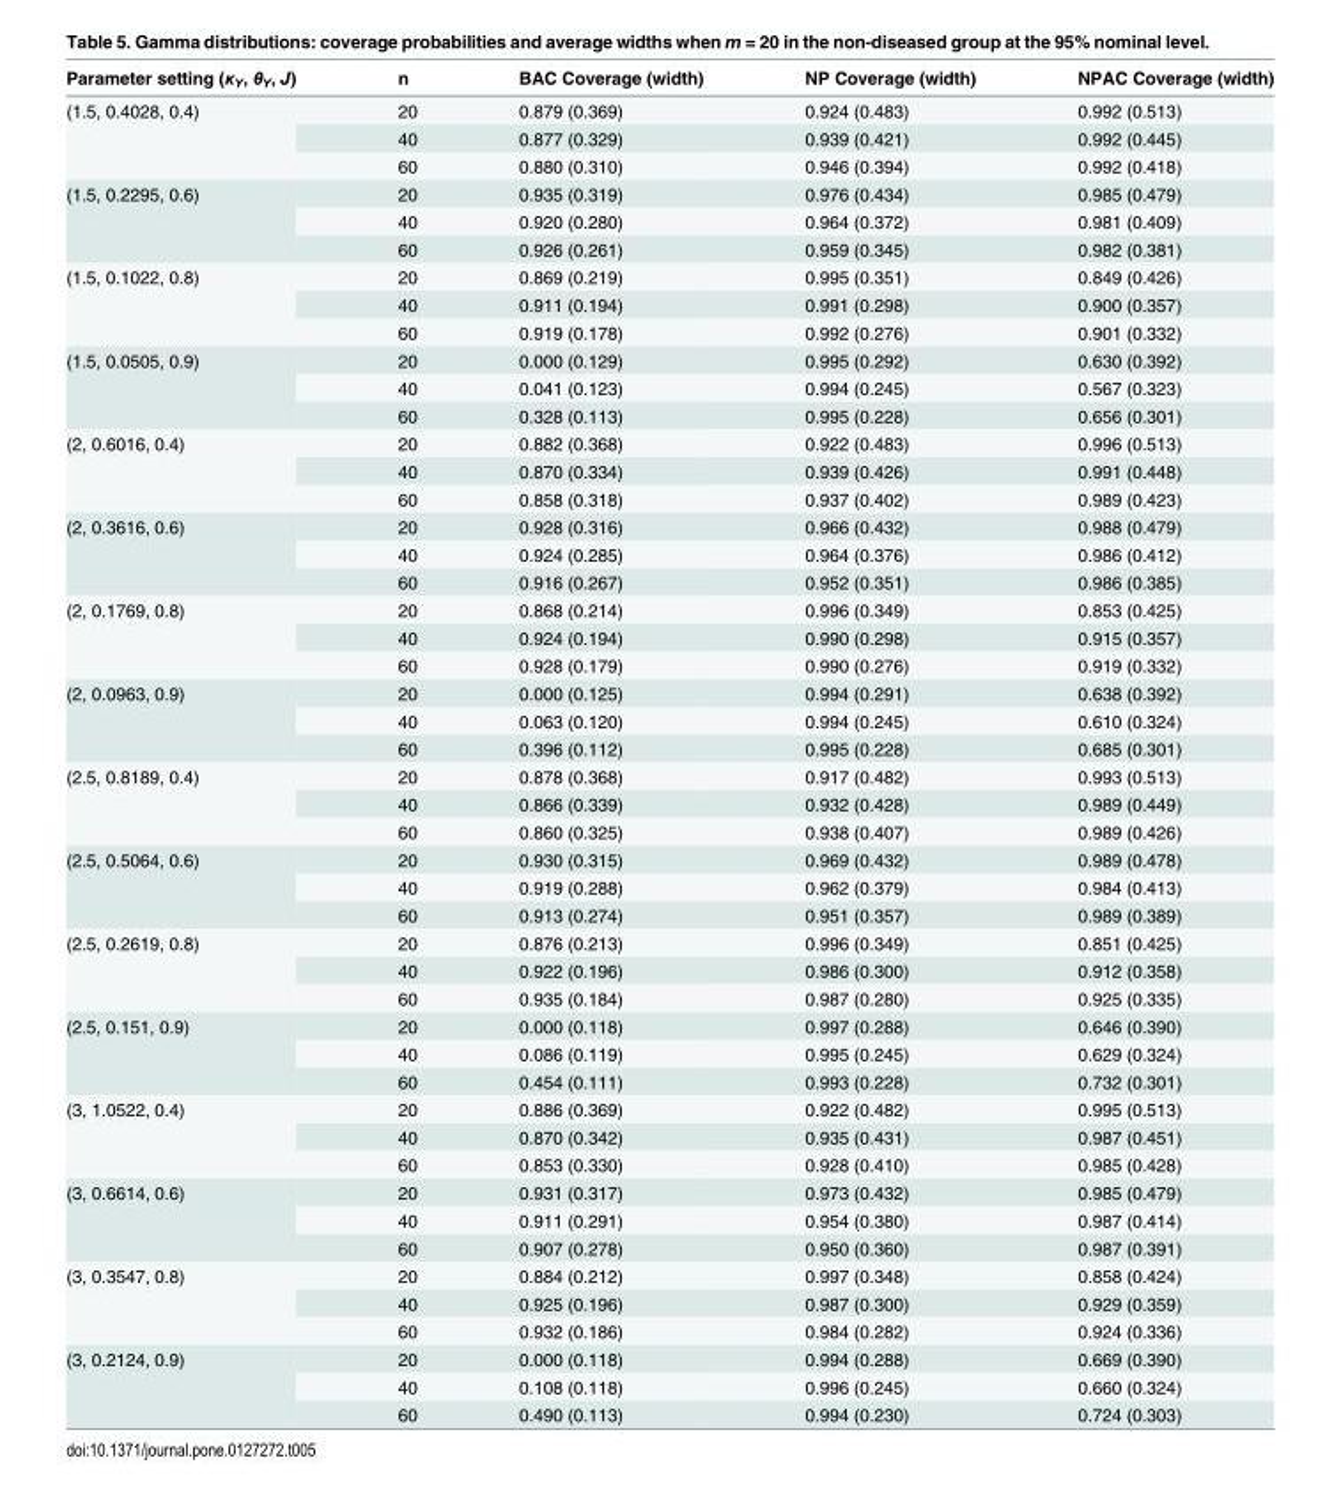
<table><thead><tr><td>Parameter setting (κ<sub>Y</sub>, θ<sub>Y</sub>, J)</td><td>n</td><td>BAC Coverage (width)</td><td>NP Coverage (width)</td><td>NPAC Coverage (width)</td></tr></thead><tbody><tr><td rowspan="3">(1.5, 0.4028, 0.4)</td><td>20</td><td>0.879 (0.369)</td><td>0.924 (0.483)</td><td>0.992 (0.513)</td></tr><tr><td>40</td><td>0.877 (0.329)</td><td>0.939 (0.421)</td><td>0.992 (0.445)</td></tr><tr><td>60</td><td>0.880 (0.310)</td><td>0.946 (0.394)</td><td>0.992 (0.418)</td></tr><tr><td rowspan="3">(1.5, 0.2295, 0.6)</td><td>20</td><td>0.935 (0.319)</td><td>0.976 (0.434)</td><td>0.985 (0.479)</td></tr><tr><td>40</td><td>0.920 (0.280)</td><td>0.964 (0.372)</td><td>0.981 (0.409)</td></tr><tr><td>60</td><td>0.926 (0.261)</td><td>0.959 (0.345)</td><td>0.982 (0.381)</td></tr><tr><td rowspan="3">(1.5, 0.1022, 0.8)</td><td>20</td><td>0.869 (0.219)</td><td>0.995 (0.351)</td><td>0.849 (0.426)</td></tr><tr><td>40</td><td>0.911 (0.194)</td><td>0.991 (0.298)</td><td>0.900 (0.357)</td></tr><tr><td>60</td><td>0.919 (0.178)</td><td>0.992 (0.276)</td><td>0.901 (0.332)</td></tr><tr><td rowspan="3">(1.5, 0.0505, 0.9)</td><td>20</td><td>0.000 (0.129)</td><td>0.995 (0.292)</td><td>0.630 (0.392)</td></tr><tr><td>40</td><td>0.041 (0.123)</td><td>0.994 (0.245)</td><td>0.567 (0.323)</td></tr><tr><td>60</td><td>0.328 (0.113)</td><td>0.995 (0.228)</td><td>0.656 (0.301)</td></tr><tr><td rowspan="3">(2, 0.6016, 0.4)</td><td>20</td><td>0.882 (0.368)</td><td>0.922 (0.483)</td><td>0.996 (0.513)</td></tr><tr><td>40</td><td>0.870 (0.334)</td><td>0.939 (0.426)</td><td>0.991 (0.448)</td></tr><tr><td>60</td><td>0.858 (0.318)</td><td>0.937 (0.402)</td><td>0.989 (0.423)</td></tr><tr><td rowspan="3">(2, 0.3616, 0.6)</td><td>20</td><td>0.928 (0.316)</td><td>0.966 (0.432)</td><td>0.988 (0.479)</td></tr><tr><td>40</td><td>0.924 (0.285)</td><td>0.964 (0.376)</td><td>0.986 (0.412)</td></tr><tr><td>60</td><td>0.916 (0.267)</td><td>0.952 (0.351)</td><td>0.986 (0.385)</td></tr><tr><td rowspan="3">(2, 0.1769, 0.8)</td><td>20</td><td>0.868 (0.214)</td><td>0.996 (0.349)</td><td>0.853 (0.425)</td></tr><tr><td>40</td><td>0.924 (0.194)</td><td>0.990 (0.298)</td><td>0.915 (0.357)</td></tr><tr><td>60</td><td>0.928 (0.179)</td><td>0.990 (0.276)</td><td>0.919 (0.332)</td></tr><tr><td rowspan="3">(2, 0.0963, 0.9)</td><td>20</td><td>0.000 (0.125)</td><td>0.994 (0.291)</td><td>0.638 (0.392)</td></tr><tr><td>40</td><td>0.063 (0.120)</td><td>0.994 (0.245)</td><td>0.610 (0.324)</td></tr><tr><td>60</td><td>0.396 (0.112)</td><td>0.995 (0.228)</td><td>0.685 (0.301)</td></tr><tr><td rowspan="3">(2.5, 0.8189, 0.4)</td><td>20</td><td>0.878 (0.368)</td><td>0.917 (0.482)</td><td>0.993 (0.513)</td></tr><tr><td>40</td><td>0.866 (0.339)</td><td>0.932 (0.428)</td><td>0.989 (0.449)</td></tr><tr><td>60</td><td>0.860 (0.325)</td><td>0.938 (0.407)</td><td>0.989 (0.426)</td></tr><tr><td rowspan="3">(2.5, 0.5064, 0.6)</td><td>20</td><td>0.930 (0.315)</td><td>0.969 (0.432)</td><td>0.989 (0.478)</td></tr><tr><td>40</td><td>0.919 (0.288)</td><td>0.962 (0.379)</td><td>0.984 (0.413)</td></tr><tr><td>60</td><td>0.913 (0.274)</td><td>0.951 (0.357)</td><td>0.989 (0.389)</td></tr><tr><td rowspan="3">(2.5, 0.2619, 0.8)</td><td>20</td><td>0.876 (0.213)</td><td>0.996 (0.349)</td><td>0.851 (0.425)</td></tr><tr><td>40</td><td>0.922 (0.196)</td><td>0.986 (0.300)</td><td>0.912 (0.358)</td></tr><tr><td>60</td><td>0.935 (0.184)</td><td>0.987 (0.280)</td><td>0.925 (0.335)</td></tr><tr><td rowspan="3">(2.5, 0.151, 0.9)</td><td>20</td><td>0.000 (0.118)</td><td>0.997 (0.288)</td><td>0.646 (0.390)</td></tr><tr><td>40</td><td>0.086 (0.119)</td><td>0.995 (0.245)</td><td>0.629 (0.324)</td></tr><tr><td>60</td><td>0.454 (0.111)</td><td>0.993 (0.228)</td><td>0.732 (0.301)</td></tr><tr><td rowspan="3">(3, 1.0522, 0.4)</td><td>20</td><td>0.886 (0.369)</td><td>0.922 (0.482)</td><td>0.995 (0.513)</td></tr><tr><td>40</td><td>0.870 (0.342)</td><td>0.935 (0.431)</td><td>0.987 (0.451)</td></tr><tr><td>60</td><td>0.853 (0.330)</td><td>0.928 (0.410)</td><td>0.985 (0.428)</td></tr><tr><td rowspan="3">(3, 0.6614, 0.6)</td><td>20</td><td>0.931 (0.317)</td><td>0.973 (0.432)</td><td>0.985 (0.479)</td></tr><tr><td>40</td><td>0.911 (0.291)</td><td>0.954 (0.380)</td><td>0.987 (0.414)</td></tr><tr><td>60</td><td>0.907 (0.278)</td><td>0.950 (0.360)</td><td>0.987 (0.391)</td></tr><tr><td rowspan="3">(3, 0.3547, 0.8)</td><td>20</td><td>0.884 (0.212)</td><td>0.997 (0.348)</td><td>0.858 (0.424)</td></tr><tr><td>40</td><td>0.925 (0.196)</td><td>0.987 (0.300)</td><td>0.929 (0.359)</td></tr><tr><td>60</td><td>0.932 (0.186)</td><td>0.984 (0.282)</td><td>0.924 (0.336)</td></tr><tr><td rowspan="3">(3, 0.2124, 0.9)</td><td>20</td><td>0.000 (0.118)</td><td>0.994 (0.288)</td><td>0.669 (0.390)</td></tr><tr><td>40</td><td>0.108 (0.118)</td><td>0.996 (0.245)</td><td>0.660 (0.324)</td></tr><tr><td>60</td><td>0.490 (0.113)</td><td>0.994 (0.230)</td><td>0.724 (0.303)</td></tr></tbody></table>